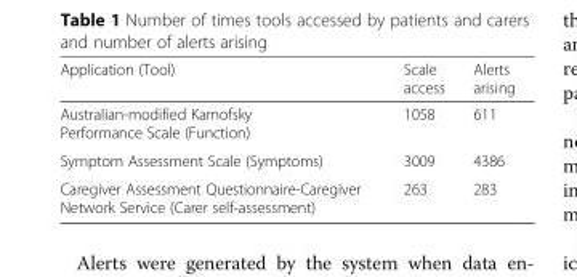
<table><thead><tr><td>Application (Tool)</td><td>Scale access</td><td>Alerts arising</td></tr></thead><tbody><tr><td>Australian-modified Karnofsky Performance Scale (Function)</td><td>1058</td><td>611</td></tr><tr><td>Symptom Assessment Scale (Symptoms)</td><td>3009</td><td>4386</td></tr><tr><td>Caregiver Assessment Questionnaire-Caregiver Network Service (Carer self-assessment)</td><td>263</td><td>283</td></tr></tbody></table>